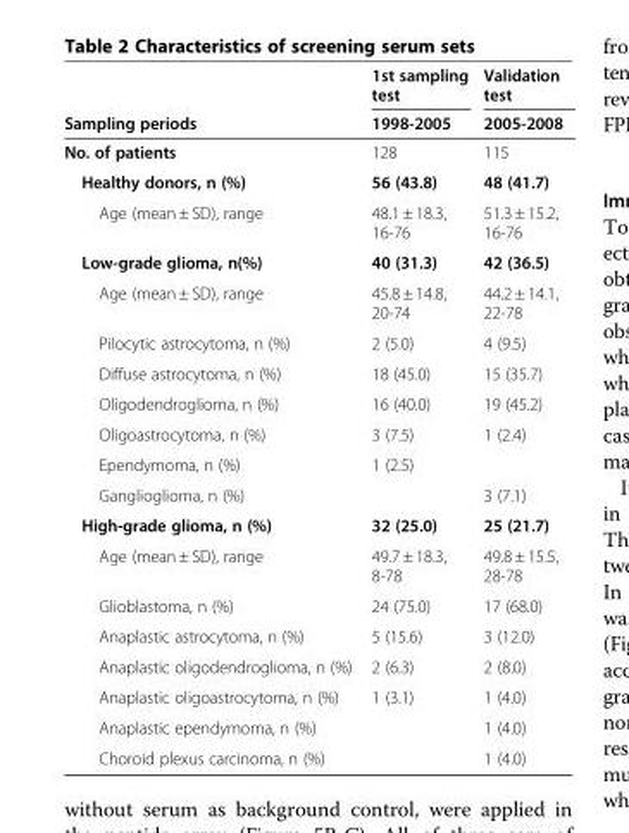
<table><thead><tr><td rowspan="2">Sampling periods</td><td rowspan="2">1st sampling test 1998-2005</td><td rowspan="2">Validation test 2005-2008</td></tr><tr></tr></thead><tbody><tr><td>No. of patients</td><td>128</td><td>115</td></tr><tr><td>Healthy donors, n (%)</td><td>56 (43.8)</td><td>48 (41.7)</td></tr><tr><td>Age (mean ± SD), range</td><td>48.1 ± 18.3, 16-76</td><td>51.3 ± 15.2, 16-76</td></tr><tr><td>Low-grade glioma, n(%)</td><td>40 (31.3)</td><td>42 (36.5)</td></tr><tr><td>Age (mean ± SD), range</td><td>45.8 ± 14.8, 20-74</td><td>44.2 ± 14.1, 22-78</td></tr><tr><td>Pilocytic astrocytoma, n (%)</td><td>2 (5.0)</td><td>4 (9.5)</td></tr><tr><td>Diffuse astrocytoma, n (%)</td><td>18 (45.0)</td><td>15 (35.7)</td></tr><tr><td>Oligodendroglioma, n (%)</td><td>16 (40.0)</td><td>19 (45.2)</td></tr><tr><td>Oligoastrocytoma, n (%)</td><td>3 (7.5)</td><td>1 (2.4)</td></tr><tr><td>Ependymoma, n (%)</td><td>1 (2.5)</td><td></td></tr><tr><td>Ganglioglioma, n (%)</td><td></td><td>3 (7.1)</td></tr><tr><td>High-grade glioma, n (%)</td><td>32 (25.0)</td><td>25 (21.7)</td></tr><tr><td>Age (mean ± SD), range</td><td>49.7 ± 18.3, 8-78</td><td>49.8 ± 15.5, 28-78</td></tr><tr><td>Glioblastoma, n (%)</td><td>24 (75.0)</td><td>17 (68.0)</td></tr><tr><td>Anaplastic astrocytoma, n (%)</td><td>5 (15.6)</td><td>3 (12.0)</td></tr><tr><td>Anaplastic oligodendroglioma, n (%)</td><td>2 (6.3)</td><td>2 (8.0)</td></tr><tr><td>Anaplastic oligoastrocytoma, n (%)</td><td>1 (3.1)</td><td>1 (4.0)</td></tr><tr><td>Anaplastic ependymoma, n (%)</td><td></td><td>1 (4.0)</td></tr><tr><td>Choroid plexus carcinoma, n (%)</td><td></td><td>1 (4.0)</td></tr></tbody></table>